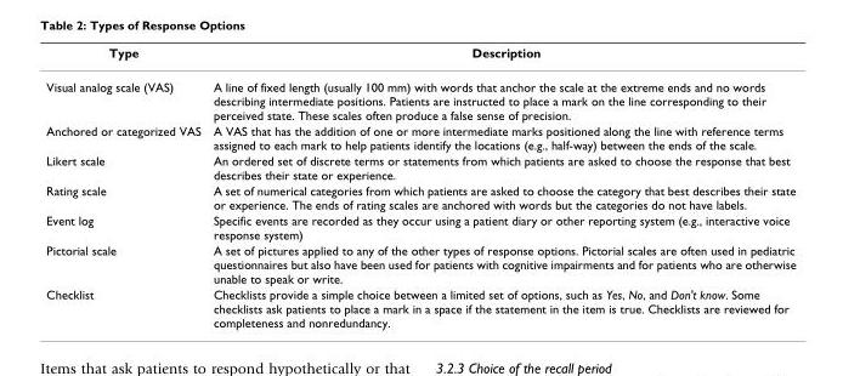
<table><thead><tr><td>Type</td><td>Description</td></tr></thead><tbody><tr><td>Visual analog scale (VAS)</td><td>A line of fixed length (usually 100 mm) with words that anchor the scale at the extreme ends and no words describing intermediate positions. Patients are instructed to place a mark on the line corresponding to their perceived state. These scales often produce a false sense of precision.</td></tr><tr><td>Anchored or categorized VAS</td><td>A VAS that has the addition of one or more intermediate marks positioned along the line with reference terms assigned to each mark to help patients identify the locations (e.g., half-way) between the ends of the scale.</td></tr><tr><td>Likert scale</td><td>An ordered set of discrete terms or statements from which patients are asked to choose the response that best describes their state or experience.</td></tr><tr><td>Rating scale</td><td>A set of numerical categories from which patients are asked to choose the category that best describes their state or experience. The ends of rating scales are anchored with words but the categories do not have labels.</td></tr><tr><td>Event log</td><td>Specific events are recorded as they occur using a patient diary or other reporting system (e.g., interactive voice response system)</td></tr><tr><td>Pictorial scale</td><td>A set of pictures applied to any of the other types of response options. Pictorial scales are often used in pediatric questionnaires but also have been used for patients with cognitive impairments and for patients who are otherwise unable to speak or write.</td></tr><tr><td>Checklist</td><td>Checklists provide a simple choice between a limited set of options, such as Yes, No, and Don&#x27;t know. Some checklists ask patients to place a mark in a space if the statement in the item is true. Checklists are reviewed for completeness and nonredundancy.</td></tr></tbody></table>